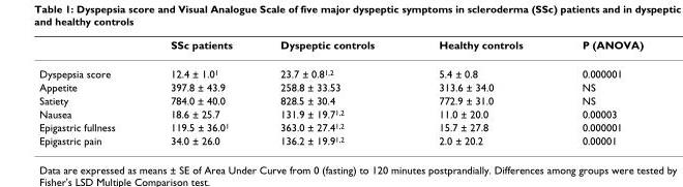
<table><thead><tr><td></td><td>SSc patients</td><td>Dyspeptic controls</td><td>Healthy controls</td><td>P (ANOVA)</td></tr></thead><tbody><tr><td>Dyspepsia score</td><td>12.4 ± 1.0<sup>1</sup></td><td>23.7 ± 0.8<sup>1,2</sup></td><td>5.4 ± 0.8</td><td>0.000001</td></tr><tr><td>Appetite</td><td>397.8 ± 43.9</td><td>258.8 ± 33.53</td><td>313.6 ± 34.0</td><td>NS</td></tr><tr><td>Satiety</td><td>784.0 ± 40.0</td><td>828.5 ± 30.4</td><td>772.9 ± 31.0</td><td>NS</td></tr><tr><td>Nausea</td><td>18.6 ± 25.7</td><td>131.9 ± 19.7<sup>1,2</sup></td><td>11.0 ± 20.0</td><td>0.00003</td></tr><tr><td>Epigastric fullness</td><td>119.5 ± 36.0<sup>1</sup></td><td>363.0 ± 27.4<sup>1,2</sup></td><td>15.7 ± 27.8</td><td>0.000001</td></tr><tr><td>Epigastric pain</td><td>34.0 ± 26.0</td><td>136.2 ± 19.9<sup>1,2</sup></td><td>2.0 ± 20.2</td><td>0.00001</td></tr></tbody></table>